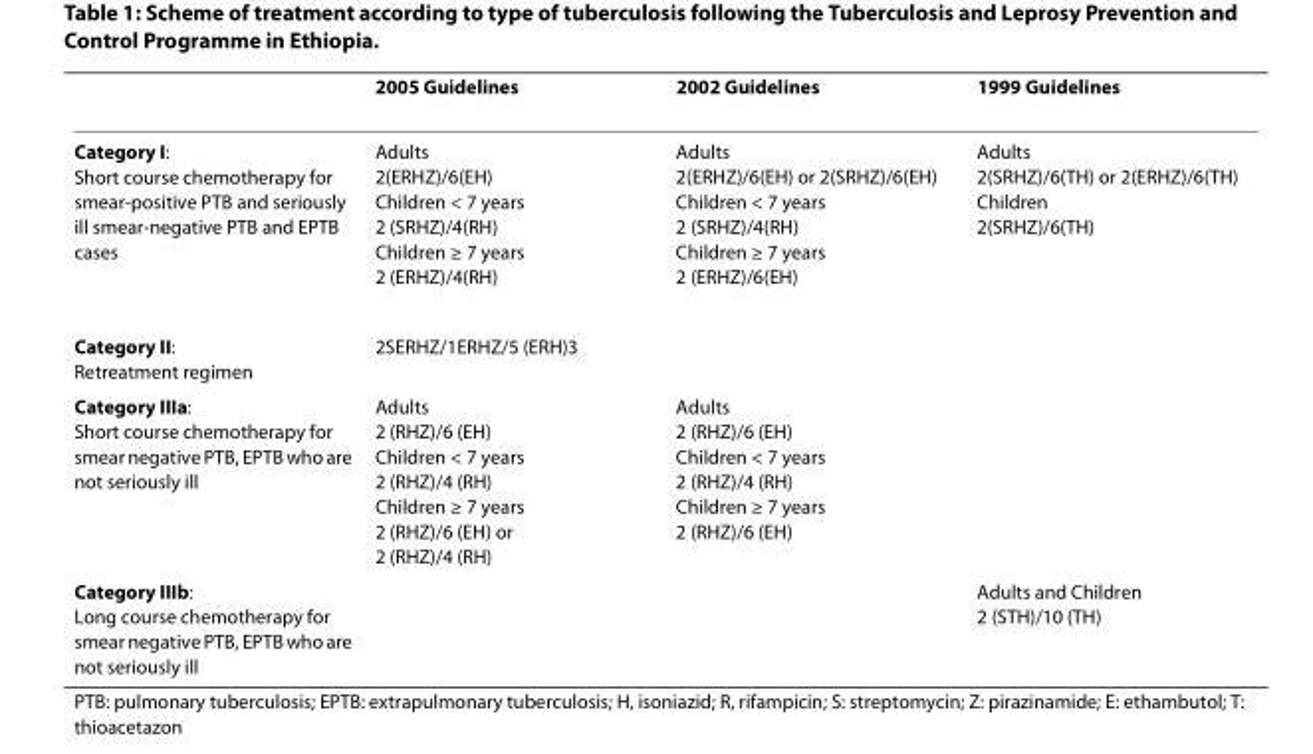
<table><thead><tr><td></td><td>2005 Guidelines</td><td>2002 Guidelines</td><td>1999 Guidelines</td></tr></thead><tbody><tr><td>Category I: Short course chemotherapy for smear-positive PTB and seriously ill smear-negative PTB and EPTB cases</td><td>Adults 2(ERHZ)/6(EH) Children &lt; 7 years 2 (SRHZ)/4(RH) Children ≥ 7 years 2 (ERHZ)/4(RH)</td><td>Adults 2(ERHZ)/6(EH) or 2(SRHZ)/6(EH) Children &lt; 7 years 2 (SRHZ)/4(RH) Children ≥ 7 years 2 (ERHZ)/6(EH)</td><td>Adults 2(SRHZ)/6(TH) or 2(ERHZ)/6(TH) Children 2(SRHZ)/6(TH)</td></tr><tr><td>Category II: Retreatment regimen</td><td>2SERHZ/1ERHZ/5 (ERH)3</td><td></td><td></td></tr><tr><td>Category IIIa: Short course chemotherapy for smear negative PTB, EPTB who are not seriously ill</td><td>Adults 2 (RHZ)/6 (EH) Children &lt; 7 years 2 (RHZ)/4 (RH) Children ≥ 7 years 2 (RHZ)/6 (EH) or 2 (RHZ)/4 (RH)</td><td>Adults 2 (RHZ)/6 (EH) Children &lt; 7 years 2 (RHZ)/4 (RH) Children ≥ 7 years 2 (RHZ)/6 (EH)</td><td></td></tr><tr><td>Category IIIb: Long course chemotherapy for smear negative PTB, EPTB who are not seriously ill</td><td></td><td></td><td>Adults and Children 2 (STH)/10 (TH)</td></tr></tbody></table>